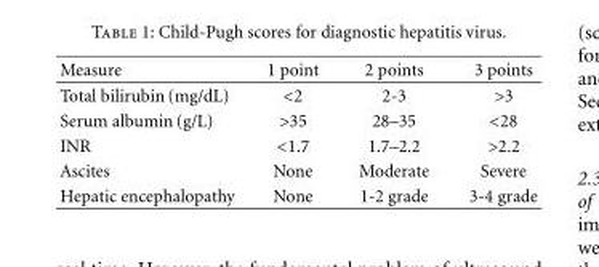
<table><thead><tr><td>Measure</td><td>1 point</td><td>2 points</td><td>3 points</td></tr></thead><tbody><tr><td>Total bilirubin (mg/dL)</td><td>&lt;2</td><td>2-3</td><td>&gt;3</td></tr><tr><td>Serum albumin (g/L)</td><td>&gt;35</td><td>28–35</td><td>&lt;28</td></tr><tr><td>INR</td><td>&lt;1.7</td><td>1.7–2.2</td><td>&gt;2.2</td></tr><tr><td>Ascites</td><td>None</td><td>Moderate</td><td>Severe</td></tr><tr><td>Hepatic encephalopathy</td><td>None</td><td>1-2 grade</td><td>3-4 grade</td></tr></tbody></table>